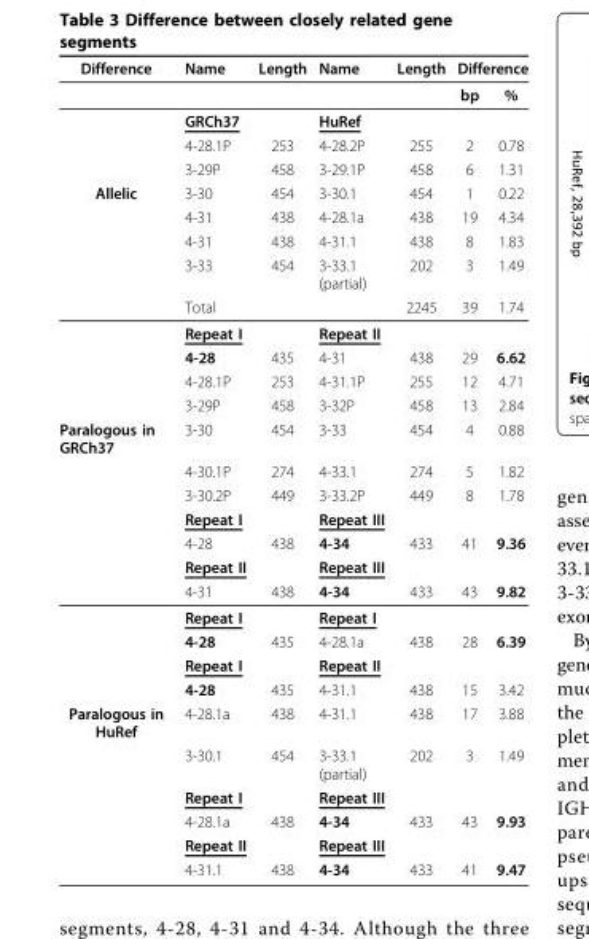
<table><thead><tr><td rowspan="2">Difference</td><td rowspan="2">Name</td><td rowspan="2">Length</td><td rowspan="2">Name</td><td rowspan="2">Length</td><td colspan="2">Difference</td></tr><tr><td>bp</td><td>%</td></tr></thead><tbody><tr><td></td><td>GRCh37</td><td></td><td>HuRef</td><td></td><td></td><td></td></tr><tr><td></td><td>4-28.1P</td><td>253</td><td>4-28.2P</td><td>255</td><td>2</td><td>0.78</td></tr><tr><td></td><td>3-29P</td><td>458</td><td>3-29.1P</td><td>458</td><td>6</td><td>1.31</td></tr><tr><td rowspan="9">Allelic</td><td>3-30</td><td>454</td><td>3-30.1</td><td>454</td><td>1</td><td>0.22</td></tr><tr><td>4-31</td><td>438</td><td>4-28.1a</td><td>438</td><td>19</td><td>4.34</td></tr><tr><td>4-31</td><td>438</td><td>4-31.1</td><td>438</td><td>8</td><td>1.83</td></tr><tr><td>3-33</td><td>454</td><td>3-33.1 (partial)</td><td>202</td><td>3</td><td>1.49</td></tr><tr><td>Total</td><td></td><td></td><td>2245</td><td>39</td><td>1.74</td></tr><tr><td>Repeat I</td><td></td><td>Repeat II</td><td></td><td></td><td></td></tr><tr><td>4-28</td><td>435</td><td>4-31</td><td>438</td><td>29</td><td>6.62</td></tr><tr><td>4-28.1P</td><td>253</td><td>4-31.1P</td><td>255</td><td>12</td><td>4.71</td></tr><tr><td>3-29P</td><td>458</td><td>3-32P</td><td>458</td><td>13</td><td>2.84</td></tr><tr><td rowspan="11">Paralogous in GRCh37</td><td>3-30</td><td>454</td><td>3-33</td><td>454</td><td>4</td><td>0.88</td></tr><tr><td>4-30.1P</td><td>274</td><td>4-33.1</td><td>274</td><td>5</td><td>1.82</td></tr><tr><td>3-30.2P</td><td>449</td><td>3-33.2P</td><td>449</td><td>8</td><td>1.78</td></tr><tr><td>Repeat I</td><td></td><td>Repeat III</td><td></td><td></td><td></td></tr><tr><td>4-28</td><td>438</td><td>4-34</td><td>433</td><td>41</td><td>9.36</td></tr><tr><td>Repeat II</td><td></td><td>Repeat III</td><td></td><td></td><td></td></tr><tr><td>4-31</td><td>438</td><td>4-34</td><td>433</td><td>43</td><td>9.82</td></tr><tr><td>Repeat I</td><td></td><td>Repeat I</td><td></td><td></td><td></td></tr><tr><td>4-28</td><td>435</td><td>4-28.1a</td><td>438</td><td>28</td><td>6.39</td></tr><tr><td>Repeat I</td><td></td><td>Repeat II</td><td></td><td></td><td></td></tr><tr><td>4-28</td><td>435</td><td>4-31.1</td><td>438</td><td>15</td><td>3.42</td></tr><tr><td rowspan="6">Paralogous in HuRef</td><td>4-28.1a</td><td>438</td><td>4-31.1</td><td>438</td><td>17</td><td>3.88</td></tr><tr><td>3-30.1</td><td>454</td><td>3-33.1 (partial)</td><td>202</td><td>3</td><td>1.49</td></tr><tr><td>Repeat I</td><td></td><td>Repeat III</td><td></td><td></td><td></td></tr><tr><td>4-28.1a</td><td>438</td><td>4-34</td><td>433</td><td>43</td><td>9.93</td></tr><tr><td>Repeat II</td><td></td><td>Repeat III</td><td></td><td></td><td></td></tr><tr><td>4-31.1</td><td>438</td><td>4-34</td><td>433</td><td>41</td><td>9.47</td></tr></tbody></table>